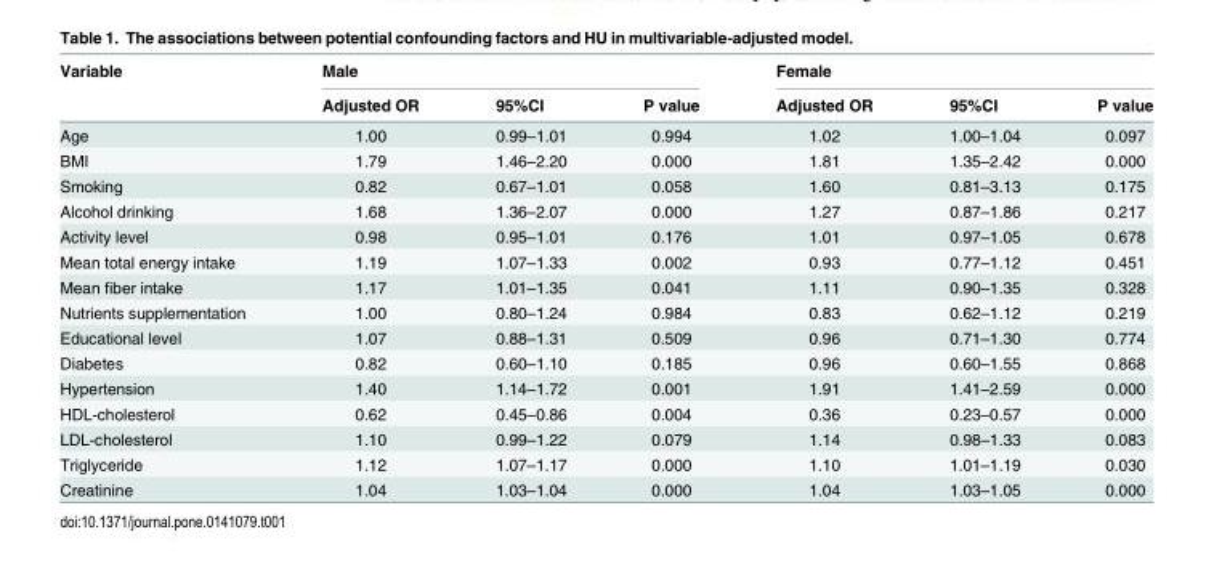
<table><thead><tr><td rowspan="2">Variable</td><td colspan="3">Male</td><td colspan="3">Female</td></tr><tr><td>Adjusted OR</td><td>95%CI</td><td>P value</td><td>Adjusted OR</td><td>95%CI</td><td>P value</td></tr></thead><tbody><tr><td>Age</td><td>1.00</td><td>0.99–1.01</td><td>0.994</td><td>1.02</td><td>1.00–1.04</td><td>0.097</td></tr><tr><td>BMI</td><td>1.79</td><td>1.46–2.20</td><td>0.000</td><td>1.81</td><td>1.35–2.42</td><td>0.000</td></tr><tr><td>Smoking</td><td>0.82</td><td>0.67–1.01</td><td>0.058</td><td>1.60</td><td>0.81–3.13</td><td>0.175</td></tr><tr><td>Alcohol drinking</td><td>1.68</td><td>1.36–2.07</td><td>0.000</td><td>1.27</td><td>0.87–1.86</td><td>0.217</td></tr><tr><td>Activity level</td><td>0.98</td><td>0.95–1.01</td><td>0.176</td><td>1.01</td><td>0.97–1.05</td><td>0.678</td></tr><tr><td>Mean total energy intake</td><td>1.19</td><td>1.07–1.33</td><td>0.002</td><td>0.93</td><td>0.77–1.12</td><td>0.451</td></tr><tr><td>Mean fiber intake</td><td>1.17</td><td>1.01–1.35</td><td>0.041</td><td>1.11</td><td>0.90–1.35</td><td>0.328</td></tr><tr><td>Nutrients supplementation</td><td>1.00</td><td>0.80–1.24</td><td>0.984</td><td>0.83</td><td>0.62–1.12</td><td>0.219</td></tr><tr><td>Educational level</td><td>1.07</td><td>0.88–1.31</td><td>0.509</td><td>0.96</td><td>0.71–1.30</td><td>0.774</td></tr><tr><td>Diabetes</td><td>0.82</td><td>0.60–1.10</td><td>0.185</td><td>0.96</td><td>0.60–1.55</td><td>0.868</td></tr><tr><td>Hypertension</td><td>1.40</td><td>1.14–1.72</td><td>0.001</td><td>1.91</td><td>1.41–2.59</td><td>0.000</td></tr><tr><td>HDL-cholesterol</td><td>0.62</td><td>0.45–0.86</td><td>0.004</td><td>0.36</td><td>0.23–0.57</td><td>0.000</td></tr><tr><td>LDL-cholesterol</td><td>1.10</td><td>0.99–1.22</td><td>0.079</td><td>1.14</td><td>0.98–1.33</td><td>0.083</td></tr><tr><td>Triglyceride</td><td>1.12</td><td>1.07–1.17</td><td>0.000</td><td>1.10</td><td>1.01–1.19</td><td>0.030</td></tr><tr><td>Creatinine</td><td>1.04</td><td>1.03–1.04</td><td>0.000</td><td>1.04</td><td>1.03–1.05</td><td>0.000</td></tr></tbody></table>